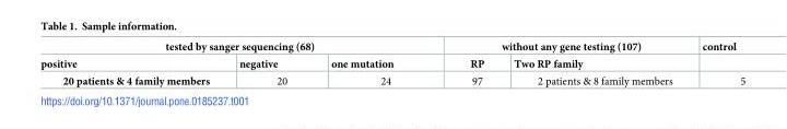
<table><thead><tr><td colspan="3">tested by sanger sequencing (68)</td><td colspan="2">without any gene testing (107)</td><td rowspan="2">control</td></tr><tr><td>positive</td><td>negative</td><td>one mutation</td><td>RP</td><td>Two RP family</td></tr></thead><tbody><tr><td>20 patients &amp; 4 family members</td><td>20</td><td>24</td><td>97</td><td>2 patients &amp; 8 family members</td><td>5</td></tr></tbody></table>